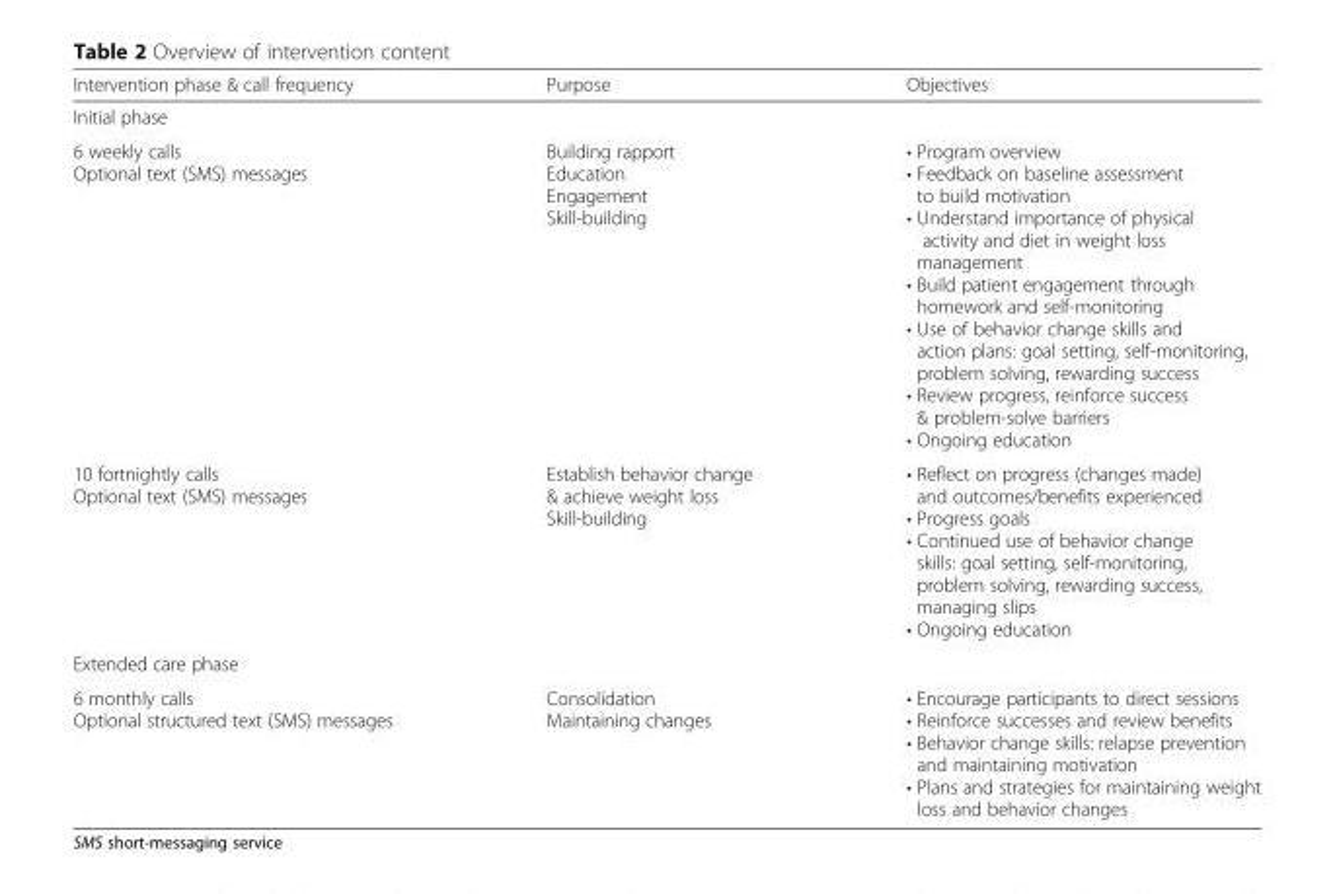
<table><thead><tr><td>Intervention phase &amp; call frequency</td><td>Purpose</td><td>Objectives</td></tr></thead><tbody><tr><td colspan="3">Initial phase</td></tr><tr><td>6 weekly calls Optional text (SMS) messages</td><td>Building rapport Education Engagement Skill-building</td><td>• Program overview • Feedback on baseline assessment to build motivation • Understand importance of physical activity and diet in weight loss management • Build patient engagement through homework and self-monitoring • Use of behavior change skills and action plans: goal setting, self-monitoring, problem solving, rewarding success • Review progress, reinforce success &amp; problem-solve barriers • Ongoing education</td></tr><tr><td>10 fortnightly calls Optional text (SMS) messages</td><td>Establish behavior change &amp; achieve weight loss Skill-building</td><td>• Reflect on progress (changes made) and outcomes/benefits experienced • Progress goals • Continued use of behavior change skills: goal setting, self-monitoring, problem solving, rewarding success, managing slips • Ongoing education</td></tr><tr><td colspan="3">Extended care phase</td></tr><tr><td>6 monthly calls Optional structured text (SMS) messages</td><td>Consolidation Maintaining changes</td><td>• Encourage participants to direct sessions • Reinforce successes and review benefits • Behavior change skills: relapse prevention and maintaining motivation • Plans and strategies for maintaining weight loss and behavior changes</td></tr></tbody></table>